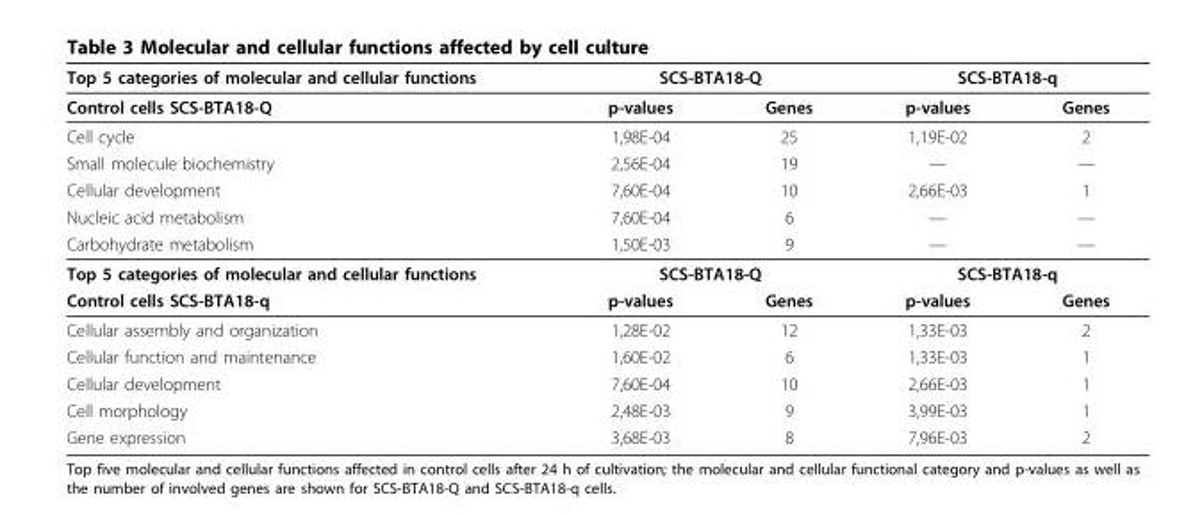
<table><thead><tr><td rowspan="2">Top 5 categories of molecular and cellular functions Control cells SCS-BTA18-Q</td><td colspan="2">SCS-BTA18-Q</td><td colspan="2">SCS-BTA18-q</td></tr><tr><td>p-values</td><td>Genes</td><td>p-values</td><td>Genes</td></tr></thead><tbody><tr><td>Cell cycle</td><td>1,98E-04</td><td>25</td><td>1,19E-02</td><td>2</td></tr><tr><td>Small molecule biochemistry</td><td>2,56E-04</td><td>19</td><td>—</td><td>—</td></tr><tr><td>Cellular development</td><td>7,60E-04</td><td>10</td><td>2,66E-03</td><td>1</td></tr><tr><td>Nucleic acid metabolism</td><td>7,60E-04</td><td>6</td><td>—</td><td>—</td></tr><tr><td>Carbohydrate metabolism</td><td>1,50E-03</td><td>9</td><td>—</td><td>—</td></tr><tr><td>Top 5 categories of molecular and cellular functions</td><td colspan="2">SCS-BTA18-Q</td><td colspan="2">SCS-BTA18-q</td></tr><tr><td>Control cells SCS-BTA18-q</td><td>p-values</td><td>Genes</td><td>p-values</td><td>Genes</td></tr><tr><td>Cellular assembly and organization</td><td>1,28E-02</td><td>12</td><td>1,33E-03</td><td>2</td></tr><tr><td>Cellular function and maintenance</td><td>1,60E-02</td><td>6</td><td>1,33E-03</td><td>1</td></tr><tr><td>Cellular development</td><td>7,60E-04</td><td>10</td><td>2,66E-03</td><td>1</td></tr><tr><td>Cell morphology</td><td>2,48E-03</td><td>9</td><td>3,99E-03</td><td>1</td></tr><tr><td>Gene expression</td><td>3,68E-03</td><td>8</td><td>7,96E-03</td><td>2</td></tr></tbody></table>